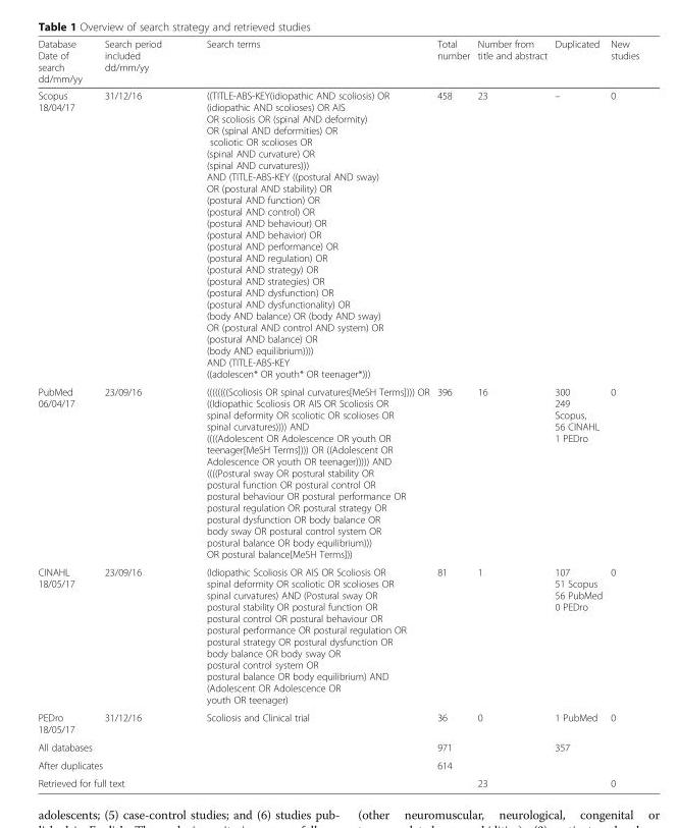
<table><thead><tr><td>Database Date of search dd/mm/yy</td><td>Search period included dd/mm/yy</td><td>Search terms</td><td>Total number</td><td>Number from title and abstract</td><td>Duplicated</td><td>New studies</td></tr></thead><tbody><tr><td>Scopus 18/04/17</td><td>31/12/16</td><td>((TITLE-ABS-KEY(idiopathic AND scoliosis) OR (idiopathic AND scolioses) OR AIS OR scoliosis OR (spinal AND deformity) OR (spinal AND deformities) OR scoliotic OR scolioses OR (spinal AND curvature) OR (spinal AND curvatures))) AND (TITLE-ABS-KEY ((postural AND sway) OR (postural AND stability) OR (postural AND function) OR (postural AND control) OR (postural AND behaviour) OR (postural AND behavior) OR (postural AND performance) OR (postural AND regulation) OR (postural AND strategy) OR (postural AND strategies) OR (postural AND dysfunction) OR (postural AND dysfunctionality) OR (body AND balance) OR (body AND sway) OR (postural AND control AND system) OR (postural AND balance) OR (body AND equilibrium)))) AND (TITLE-ABS-KEY ((adolescen* OR youth* OR teenager*)))</td><td>458</td><td>23</td><td>–</td><td>0</td></tr><tr><td>PubMed 06/04/17</td><td>23/09/16</td><td>((((((((Scoliosis OR spinal curvatures[MeSH Terms]))) OR ((Idiopathic Scoliosis OR AIS OR Scoliosis OR spinal deformity OR scoliotic OR scolioses OR spinal curvatures)))) AND ((((Adolescent OR Adolescence OR youth OR teenager[MeSH Terms]))) OR ((Adolescent OR Adolescence OR youth OR teenager))))) AND ((((Postural sway OR postural stability OR postural function OR postural control OR postural behaviour OR postural performance OR postural regulation OR postural strategy OR postural dysfunction OR body balance OR body sway OR postural control system OR postural balance OR body equilibrium))) OR postural balance[MeSH Terms]))</td><td>396</td><td>16</td><td>300 249 Scopus, 56 CINAHL 1 PEDro</td><td>0</td></tr><tr><td>CINAHL 18/05/17</td><td>23/09/16</td><td>(Idiopathic Scoliosis OR AIS OR Scoliosis OR spinal deformity OR scoliotic OR scolioses OR spinal curvatures) AND (Postural sway OR postural stability OR postural function OR postural control OR postural behaviour OR postural performance OR postural regulation OR postural strategy OR postural dysfunction OR body balance OR body sway OR postural control system OR postural balance OR body equilibrium) AND (Adolescent OR Adolescence OR youth OR teenager)</td><td>81</td><td>1</td><td>107 51 Scopus 56 PubMed 0 PEDro</td><td>0</td></tr><tr><td>PEDro 18/05/17</td><td>31/12/16</td><td>Scoliosis and Clinical trial</td><td>36</td><td>0</td><td>1 PubMed</td><td>0</td></tr><tr><td colspan="3">All databases</td><td>971</td><td></td><td>357</td><td></td></tr><tr><td colspan="3">After duplicates</td><td>614</td><td></td><td></td><td></td></tr><tr><td colspan="3">Retrieved for full text</td><td></td><td>23</td><td></td><td>0</td></tr></tbody></table>